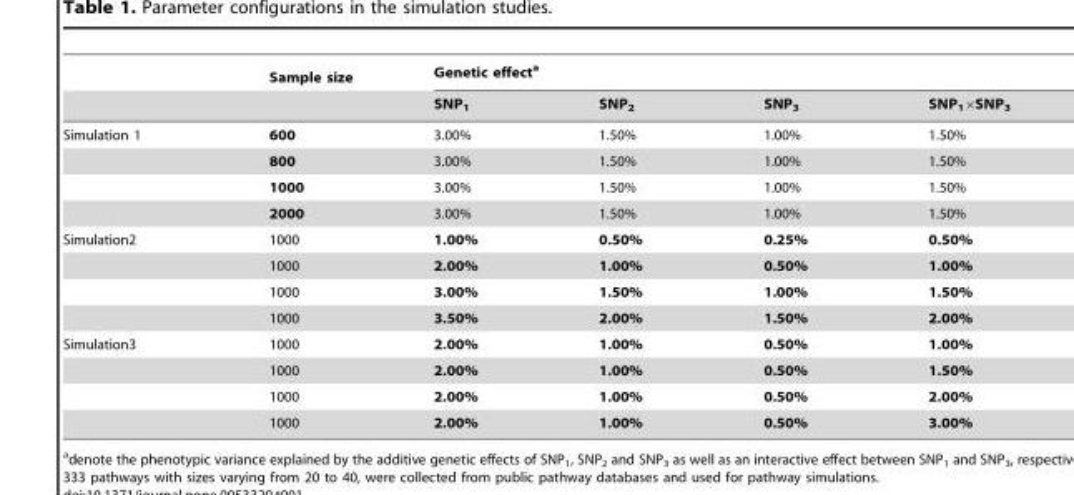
<table><thead><tr><td rowspan="2"></td><td rowspan="2">Sample size</td><td colspan="4">Genetic effect<sup>a</sup></td></tr><tr><td>SNP<sub>1</sub></td><td>SNP<sub>2</sub></td><td>SNP<sub>3</sub></td><td>SNP<sub>1</sub>×SNP<sub>3</sub></td></tr></thead><tbody><tr><td rowspan="4">Simulation 1</td><td>600</td><td>3.00%</td><td>1.50%</td><td>1.00%</td><td>1.50%</td></tr><tr><td>800</td><td>3.00%</td><td>1.50%</td><td>1.00%</td><td>1.50%</td></tr><tr><td>1000</td><td>3.00%</td><td>1.50%</td><td>1.00%</td><td>1.50%</td></tr><tr><td>2000</td><td>3.00%</td><td>1.50%</td><td>1.00%</td><td>1.50%</td></tr><tr><td rowspan="4">Simulation2</td><td>1000</td><td>1.00%</td><td>0.50%</td><td>0.25%</td><td>0.50%</td></tr><tr><td>1000</td><td>2.00%</td><td>1.00%</td><td>0.50%</td><td>1.00%</td></tr><tr><td>1000</td><td>3.00%</td><td>1.50%</td><td>1.00%</td><td>1.50%</td></tr><tr><td>1000</td><td>3.50%</td><td>2.00%</td><td>1.50%</td><td>2.00%</td></tr><tr><td rowspan="4">Simulation3</td><td>1000</td><td>2.00%</td><td>1.00%</td><td>0.50%</td><td>1.00%</td></tr><tr><td>1000</td><td>2.00%</td><td>1.00%</td><td>0.50%</td><td>1.50%</td></tr><tr><td>1000</td><td>2.00%</td><td>1.00%</td><td>0.50%</td><td>2.00%</td></tr><tr><td>1000</td><td>2.00%</td><td>1.00%</td><td>0.50%</td><td>3.00%</td></tr></tbody></table>